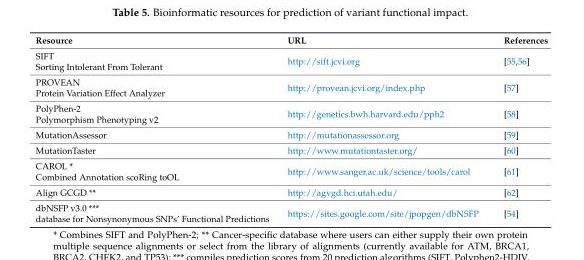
<table><thead><tr><td>Resource</td><td>URL</td><td>References</td></tr></thead><tbody><tr><td>SIFT Sorting Intolerant From Tolerant</td><td>http://sift.jcvi.org</td><td>[55,56]</td></tr><tr><td>PROVEAN Protein Variation Effect Analyzer</td><td>http://provean.jcvi.org/index.php</td><td>[57]</td></tr><tr><td>PolyPhen-2 Polymorphism Phenotyping v2</td><td>http://genetics.bwh.harvard.edu/pph2</td><td>[58]</td></tr><tr><td>MutationAssessor</td><td>http://mutationassessor.org</td><td>[59]</td></tr><tr><td>MutationTaster</td><td>http://www.mutationtaster.org/</td><td>[60]</td></tr><tr><td>CAROL * Combined Annotation scoRing toOL</td><td>http://www.sanger.ac.uk/science/tools/carol</td><td>[61]</td></tr><tr><td>Align GCGD **</td><td>http://agvgd.hci.utah.edu/</td><td>[62]</td></tr><tr><td>dbNSFP v3.0 *** database for Nonsynonymous SNPs’ Functional Predictions</td><td>https://sites.google.com/site/jpopgen/dbNSFP</td><td>[54]</td></tr></tbody></table>